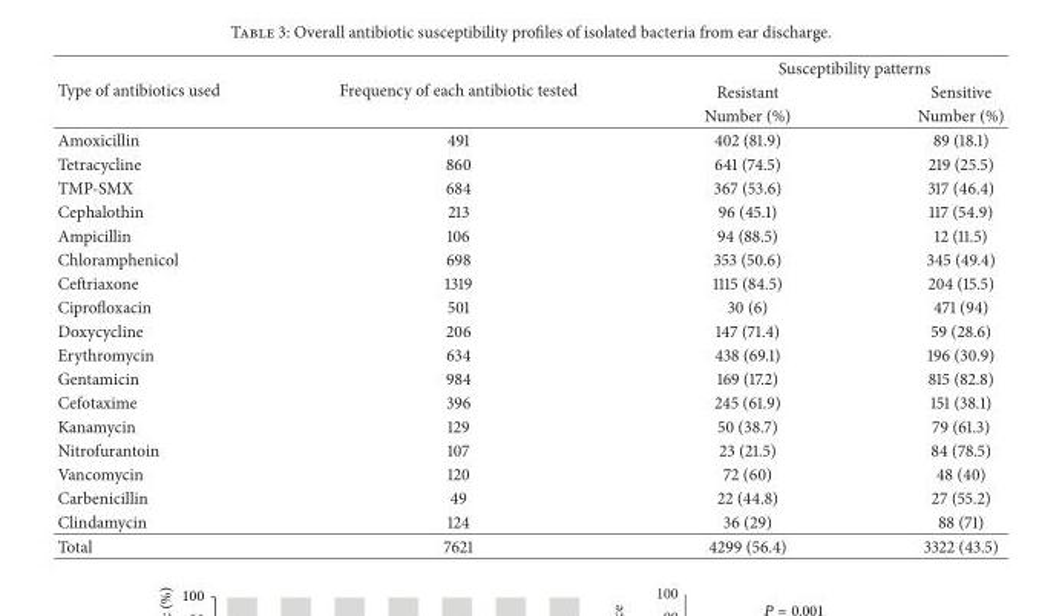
<table><thead><tr><td rowspan="3">Type of antibiotics used</td><td rowspan="3">Frequency of each antibiotic tested</td><td colspan="2">Susceptibility patterns</td></tr><tr><td rowspan="2">Resistant Number (%)</td><td rowspan="2">Sensitive Number (%)</td></tr><tr></tr></thead><tbody><tr><td>Amoxicillin</td><td>491</td><td>402 (81.9)</td><td>89 (18.1)</td></tr><tr><td>Tetracycline</td><td>860</td><td>641 (74.5)</td><td>219 (25.5)</td></tr><tr><td>TMP-SMX</td><td>684</td><td>367 (53.6)</td><td>317 (46.4)</td></tr><tr><td>Cephalothin</td><td>213</td><td>96 (45.1)</td><td>117 (54.9)</td></tr><tr><td>Ampicillin</td><td>106</td><td>94 (88.5)</td><td>12 (11.5)</td></tr><tr><td>Chloramphenicol</td><td>698</td><td>353 (50.6)</td><td>345 (49.4)</td></tr><tr><td>Ceftriaxone</td><td>1319</td><td>1115 (84.5)</td><td>204 (15.5)</td></tr><tr><td>Ciprofloxacin</td><td>501</td><td>30 (6)</td><td>471 (94)</td></tr><tr><td>Doxycycline</td><td>206</td><td>147 (71.4)</td><td>59 (28.6)</td></tr><tr><td>Erythromycin</td><td>634</td><td>438 (69.1)</td><td>196 (30.9)</td></tr><tr><td>Gentamicin</td><td>984</td><td>169 (17.2)</td><td>815 (82.8)</td></tr><tr><td>Cefotaxime</td><td>396</td><td>245 (61.9)</td><td>151 (38.1)</td></tr><tr><td>Kanamycin</td><td>129</td><td>50 (38.7)</td><td>79 (61.3)</td></tr><tr><td>Nitrofurantoin</td><td>107</td><td>23 (21.5)</td><td>84 (78.5)</td></tr><tr><td>Vancomycin</td><td>120</td><td>72 (60)</td><td>48 (40)</td></tr><tr><td>Carbenicillin</td><td>49</td><td>22 (44.8)</td><td>27 (55.2)</td></tr><tr><td>Clindamycin</td><td>124</td><td>36 (29)</td><td>88 (71)</td></tr><tr><td>Total</td><td>7621</td><td>4299 (56.4)</td><td>3322 (43.5)</td></tr></tbody></table>